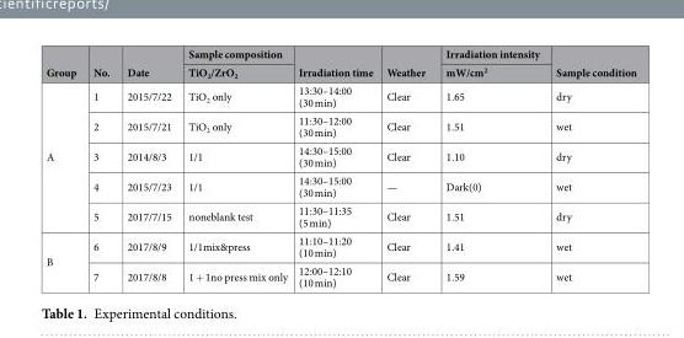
<table><thead><tr><td rowspan="2">Group</td><td rowspan="2">No.</td><td rowspan="2">Date</td><td rowspan="2">Sample composition TiO<sub>2</sub>/ZrO<sub>2</sub></td><td rowspan="2">Irradiation time</td><td rowspan="2">Weather</td><td rowspan="2">Irradiation intensity mW/cm<sup>2</sup></td><td rowspan="2">Sample condition</td></tr><tr></tr></thead><tbody><tr><td rowspan="5">A</td><td>1</td><td>2015/7/22</td><td>TiO<sub>2</sub> only</td><td>13:30–14:00 (30 min)</td><td>Clear</td><td>1.65</td><td>dry</td></tr><tr><td>2</td><td>2015/7/21</td><td>TiO<sub>2</sub> only</td><td>11:30–12:00 (30 min)</td><td>Clear</td><td>1.51</td><td>wet</td></tr><tr><td>3</td><td>2014/8/3</td><td>1/1</td><td>14:30–15:00 (30 min)</td><td>Clear</td><td>1.10</td><td>dry</td></tr><tr><td>4</td><td>2015/7/23</td><td>1/1</td><td>14:30–15:00 (30 min)</td><td>—</td><td>Dark(0)</td><td>wet</td></tr><tr><td>5</td><td>2017/7/15</td><td>noneblank test</td><td>11:30–11:35 (5 min)</td><td>Clear</td><td>1.51</td><td>dry</td></tr><tr><td rowspan="2">B</td><td>6</td><td>2017/8/9</td><td>1/1mix&amp;press</td><td>11:10–11:20 (10 min)</td><td>Clear</td><td>1.41</td><td>wet</td></tr><tr><td>7</td><td>2017/8/8</td><td>1 + 1no press mix only</td><td>12:00–12:10 (10 min)</td><td>Clear</td><td>1.59</td><td>wet</td></tr></tbody></table>